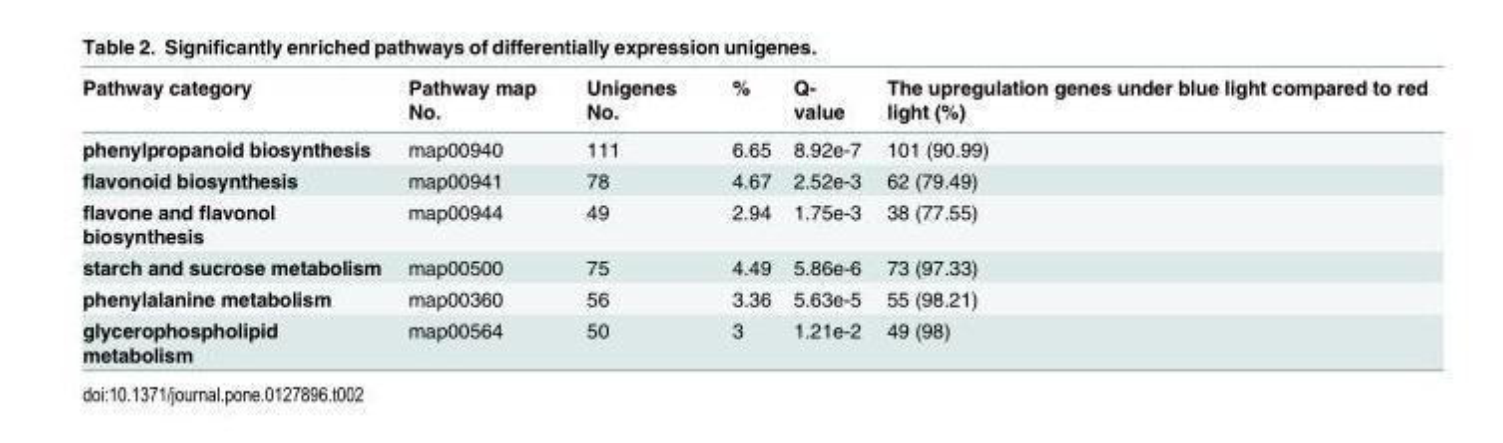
<table><thead><tr><td>Pathway category</td><td>Pathway map No.</td><td>Unigenes No.</td><td>%</td><td>Q- value</td><td>The upregulation genes under blue light compared to red light (%)</td></tr></thead><tbody><tr><td>phenylpropanoid biosynthesis</td><td>map00940</td><td>111</td><td>6.65</td><td>8.92e-7</td><td>101 (90.99)</td></tr><tr><td>flavonoid biosynthesis</td><td>map00941</td><td>78</td><td>4.67</td><td>2.52e-3</td><td>62 (79.49)</td></tr><tr><td>flavone and flavonol biosynthesis</td><td>map00944</td><td>49</td><td>2.94</td><td>1.75e-3</td><td>38 (77.55)</td></tr><tr><td>starch and sucrose metabolism</td><td>map00500</td><td>75</td><td>4.49</td><td>5.86e-6</td><td>73 (97.33)</td></tr><tr><td>phenylalanine metabolism</td><td>map00360</td><td>56</td><td>3.36</td><td>5.63e-5</td><td>55 (98.21)</td></tr><tr><td>glycerophospholipid metabolism</td><td>map00564</td><td>50</td><td>3</td><td>1.21e-2</td><td>49 (98)</td></tr></tbody></table>